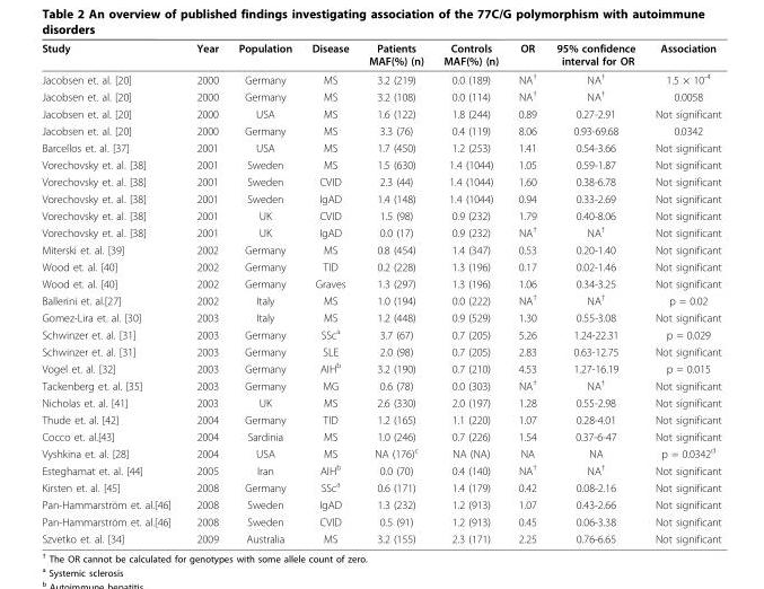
<table><thead><tr><td>Study</td><td>Year</td><td>Population</td><td>Disease</td><td>Patients MAF(%) (n)</td><td>Controls MAF(%) (n)</td><td>OR</td><td>95% confidence interval for OR</td><td>Association</td></tr></thead><tbody><tr><td>Jacobsen et. al. [20]</td><td>2000</td><td>Germany</td><td>MS</td><td>3.2 (219)</td><td>0.0 (189)</td><td>NA<sup>†</sup></td><td>NA<sup>†</sup></td><td>1.5 × 10<sup>-4</sup></td></tr><tr><td>Jacobsen et. al. [20]</td><td>2000</td><td>Germany</td><td>MS</td><td>3.2 (108)</td><td>0.0 (114)</td><td>NA<sup>†</sup></td><td>NA<sup>†</sup></td><td>0.0058</td></tr><tr><td>Jacobsen et. al. [20]</td><td>2000</td><td>USA</td><td>MS</td><td>1.6 (122)</td><td>1.8 (244)</td><td>0.89</td><td>0.27-2.91</td><td>Not significant</td></tr><tr><td>Jacobsen et. al. [20]</td><td>2000</td><td>Germany</td><td>MS</td><td>3.3 (76)</td><td>0.4 (119)</td><td>8.06</td><td>0.93-69.68</td><td>0.0342</td></tr><tr><td>Barcellos et. al. [37]</td><td>2001</td><td>USA</td><td>MS</td><td>1.7 (450)</td><td>1.2 (253)</td><td>1.41</td><td>0.54-3.66</td><td>Not significant</td></tr><tr><td>Vorechovsky et. al. [38]</td><td>2001</td><td>Sweden</td><td>MS</td><td>1.5 (630)</td><td>1.4 (1044)</td><td>1.05</td><td>0.59-1.87</td><td>Not significant</td></tr><tr><td>Vorechovsky et. al. [38]</td><td>2001</td><td>Sweden</td><td>CVID</td><td>2.3 (44)</td><td>1.4 (1044)</td><td>1.60</td><td>0.38-6.78</td><td>Not significant</td></tr><tr><td>Vorechovsky et. al. [38]</td><td>2001</td><td>Sweden</td><td>IgAD</td><td>1.4 (148)</td><td>1.4 (1044)</td><td>0.94</td><td>0.33-2.69</td><td>Not significant</td></tr><tr><td>Vorechovsky et. al. [38]</td><td>2001</td><td>UK</td><td>CVID</td><td>1.5 (98)</td><td>0.9 (232)</td><td>1.79</td><td>0.40-8.06</td><td>Not significant</td></tr><tr><td>Vorechovsky et. al. [38]</td><td>2001</td><td>UK</td><td>IgAD</td><td>0.0 (17)</td><td>0.9 (232)</td><td>NA<sup>†</sup></td><td>NA<sup>†</sup></td><td>Not significant</td></tr><tr><td>Miterski et. al. [39]</td><td>2002</td><td>Germany</td><td>MS</td><td>0.8 (454)</td><td>1.4 (347)</td><td>0.53</td><td>0.20-1.40</td><td>Not significant</td></tr><tr><td>Wood et. al. [40]</td><td>2002</td><td>Germany</td><td>TID</td><td>0.2 (228)</td><td>1.3 (196)</td><td>0.17</td><td>0.02-1.46</td><td>Not significant</td></tr><tr><td>Wood et. al. [40]</td><td>2002</td><td>Germany</td><td>Graves</td><td>1.3 (297)</td><td>1.3 (196)</td><td>1.06</td><td>0.34-3.25</td><td>Not significant</td></tr><tr><td>Ballerini et. al.[27]</td><td>2002</td><td>Italy</td><td>MS</td><td>1.0 (194)</td><td>0.0 (222)</td><td>NA<sup>†</sup></td><td>NA<sup>†</sup></td><td>p = 0.02</td></tr><tr><td>Gomez-Lira et. al. [30]</td><td>2003</td><td>Italy</td><td>MS</td><td>1.2 (448)</td><td>0.9 (529)</td><td>1.30</td><td>0.55-3.08</td><td>Not significant</td></tr><tr><td>Schwinzer et. al. [31]</td><td>2003</td><td>Germany</td><td>SSc<sup>a</sup></td><td>3.7 (67)</td><td>0.7 (205)</td><td>5.26</td><td>1.24-22.31</td><td>p = 0.029</td></tr><tr><td>Schwinzer et. al. [31]</td><td>2003</td><td>Germany</td><td>SLE</td><td>2.0 (98)</td><td>0.7 (205)</td><td>2.83</td><td>0.63-12.75</td><td>Not significant</td></tr><tr><td>Vogel et. al. [32]</td><td>2003</td><td>Germany</td><td>AIH<sup>b</sup></td><td>3.2 (190)</td><td>0.7 (210)</td><td>4.53</td><td>1.27-16.19</td><td>p = 0.015</td></tr><tr><td>Tackenberg et. al. [35]</td><td>2003</td><td>Germany</td><td>MG</td><td>0.6 (78)</td><td>0.0 (303)</td><td>NA<sup>†</sup></td><td>NA<sup>†</sup></td><td>Not significant</td></tr><tr><td>Nicholas et. al. [41]</td><td>2003</td><td>UK</td><td>MS</td><td>2.6 (330)</td><td>2.0 (197)</td><td>1.28</td><td>0.55-2.98</td><td>Not significant</td></tr><tr><td>Thude et. al. [42]</td><td>2004</td><td>Germany</td><td>TID</td><td>1.2 (165)</td><td>1.1 (220)</td><td>1.07</td><td>0.28-4.01</td><td>Not significant</td></tr><tr><td>Cocco et. al.[43]</td><td>2004</td><td>Sardinia</td><td>MS</td><td>1.0 (246)</td><td>0.7 (226)</td><td>1.54</td><td>0.37-6-47</td><td>Not significant</td></tr><tr><td>Vyshkina et. al. [28]</td><td>2004</td><td>USA</td><td>MS</td><td>NA (176)<sup>c</sup></td><td>NA (NA)</td><td>NA</td><td>NA</td><td>p = 0.0342<sup>d</sup></td></tr><tr><td>Esteghamat et. al. [44]</td><td>2005</td><td>Iran</td><td>AIH<sup>b</sup></td><td>0.0 (70)</td><td>0.4 (140)</td><td>NA<sup>†</sup></td><td>NA<sup>†</sup></td><td>Not significant</td></tr><tr><td>Kirsten et. al. [45]</td><td>2008</td><td>Germany</td><td>SSc<sup>a</sup></td><td>0.6 (171)</td><td>1.4 (179)</td><td>0.42</td><td>0.08-2.16</td><td>Not significant</td></tr><tr><td>Pan-Hammarström et. al.[46]</td><td>2008</td><td>Sweden</td><td>IgAD</td><td>1.3 (232)</td><td>1.2 (913)</td><td>1.07</td><td>0.43-2.66</td><td>Not significant</td></tr><tr><td>Pan-Hammarström et. al.[46]</td><td>2008</td><td>Sweden</td><td>CVID</td><td>0.5 (91)</td><td>1.2 (913)</td><td>0.45</td><td>0.06-3.38</td><td>Not significant</td></tr><tr><td>Szvetko et. al. [34]</td><td>2009</td><td>Australia</td><td>MS</td><td>3.2 (155)</td><td>2.3 (171)</td><td>2.25</td><td>0.76-6.65</td><td>Not significant</td></tr></tbody></table>